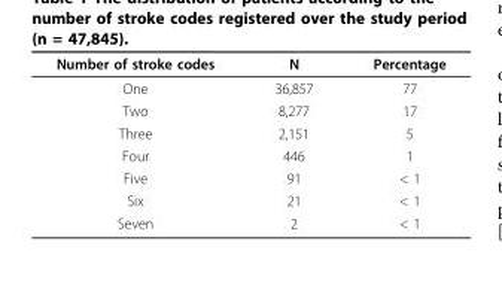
<table><thead><tr><td>Number of stroke codes</td><td>N</td><td>Percentage</td></tr></thead><tbody><tr><td>One</td><td>36,857</td><td>77</td></tr><tr><td>Two</td><td>8,277</td><td>17</td></tr><tr><td>Three</td><td>2,151</td><td>5</td></tr><tr><td>Four</td><td>446</td><td>1</td></tr><tr><td>Five</td><td>91</td><td>&lt; 1</td></tr><tr><td>Six</td><td>21</td><td>&lt; 1</td></tr><tr><td>Seven</td><td>2</td><td>&lt; 1</td></tr></tbody></table>